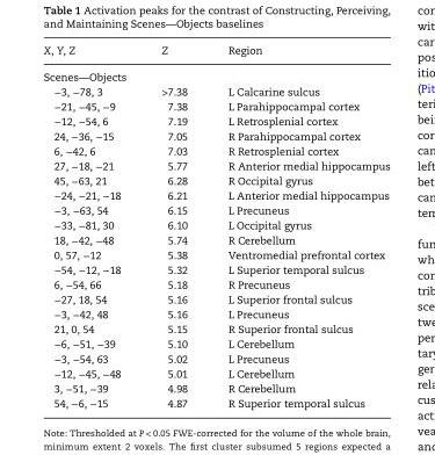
<table><thead><tr><td>X, Y, Z</td><td>Z</td><td>Region</td></tr></thead><tbody><tr><td colspan="3">Scenes—Objects</td></tr><tr><td>−3, −78, 3</td><td>&gt;7.38</td><td>L Calcarine sulcus</td></tr><tr><td>−21, −45, −9</td><td>7.38</td><td>L Parahippocampal cortex</td></tr><tr><td>−12, −54, 6</td><td>7.19</td><td>L Retrosplenial cortex</td></tr><tr><td>24, −36, −15</td><td>7.05</td><td>R Parahippocampal cortex</td></tr><tr><td>6, −42, 6</td><td>7.03</td><td>R Retrosplenial cortex</td></tr><tr><td>27, −18, −21</td><td>5.77</td><td>R Anterior medial hippocampus</td></tr><tr><td>45, −63, 21</td><td>6.28</td><td>R Occipital gyrus</td></tr><tr><td>−24, −21, −18</td><td>6.21</td><td>L Anterior medial hippocampus</td></tr><tr><td>−3, −63, 54</td><td>6.15</td><td>L Precuneus</td></tr><tr><td>−33, −81, 30</td><td>6.10</td><td>L Occipital gyrus</td></tr><tr><td>18, −42, −48</td><td>5.74</td><td>R Cerebellum</td></tr><tr><td>0, 57, −12</td><td>5.38</td><td>Ventromedial prefrontal cortex</td></tr><tr><td>−54, −12, −18</td><td>5.32</td><td>L Superior temporal sulcus</td></tr><tr><td>6, −54, 66</td><td>5.18</td><td>R Precuneus</td></tr><tr><td>−27, 18, 54</td><td>5.16</td><td>L Superior frontal sulcus</td></tr><tr><td>−3, −42, 48</td><td>5.16</td><td>L Precuneus</td></tr><tr><td>21, 0, 54</td><td>5.15</td><td>R Superior frontal sulcus</td></tr><tr><td>−6, −51, −39</td><td>5.10</td><td>L Cerebellum</td></tr><tr><td>−3, −54, 63</td><td>5.02</td><td>L Precuneus</td></tr><tr><td>−12, −45, −48</td><td>5.01</td><td>L Cerebellum</td></tr><tr><td>3, −51, −39</td><td>4.98</td><td>R Cerebellum</td></tr><tr><td>54, −6, −15</td><td>4.87</td><td>R Superior temporal sulcus</td></tr></tbody></table>